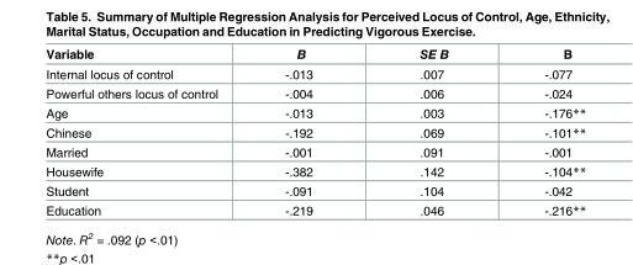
<table><thead><tr><td>Variable</td><td>B</td><td>SE B</td><td>B</td></tr></thead><tbody><tr><td>Internal locus of control</td><td>-.013</td><td>.007</td><td>-.077</td></tr><tr><td>Powerful others locus of control</td><td>-.004</td><td>.006</td><td>-.024</td></tr><tr><td>Age</td><td>-.013</td><td>.003</td><td>-.176**</td></tr><tr><td>Chinese</td><td>-.192</td><td>.069</td><td>-.101**</td></tr><tr><td>Married</td><td>-.001</td><td>.091</td><td>-.001</td></tr><tr><td>Housewife</td><td>-.382</td><td>.142</td><td>-.104**</td></tr><tr><td>Student</td><td>-.091</td><td>.104</td><td>-.042</td></tr><tr><td>Education</td><td>-.219</td><td>.046</td><td>-.216**</td></tr></tbody></table>